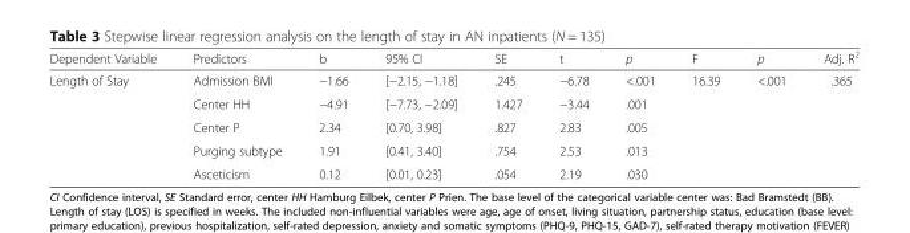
<table><thead><tr><td>Dependent Variable</td><td>Predictors</td><td>b</td><td>95% CI</td><td>SE</td><td>t</td><td>p</td><td>F</td><td>p</td><td>Adj. R<sup>2</sup></td></tr></thead><tbody><tr><td rowspan="5">Length of Stay</td><td>Admission BMI</td><td>−1.66</td><td>[−2.15, −1.18]</td><td>.245</td><td>−6.78</td><td>&lt;.001</td><td>16.39</td><td>&lt;.001</td><td>.365</td></tr><tr><td>Center HH</td><td>−4.91</td><td>[−7.73, −2.09]</td><td>1.427</td><td>−3.44</td><td>.001</td><td></td><td></td><td></td></tr><tr><td>Center P</td><td>2.34</td><td>[0.70, 3.98]</td><td>.827</td><td>2.83</td><td>.005</td><td></td><td></td><td></td></tr><tr><td>Purging subtype</td><td>1.91</td><td>[0.41, 3.40]</td><td>.754</td><td>2.53</td><td>.013</td><td></td><td></td><td></td></tr><tr><td>Asceticism</td><td>0.12</td><td>[0.01, 0.23]</td><td>.054</td><td>2.19</td><td>.030</td><td></td><td></td><td></td></tr></tbody></table>